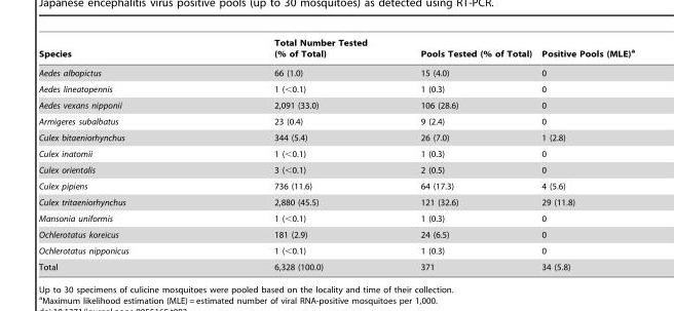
<table><thead><tr><td>Species</td><td>Total Number Tested (% of Total)</td><td>Pools Tested (% of Total)</td><td>Positive Pools (MLE)<sup>a</sup></td></tr></thead><tbody><tr><td>Aedes albopictus</td><td>66 (1.0)</td><td>15 (4.0)</td><td>0</td></tr><tr><td>Aedes lineatopennis</td><td>1 (&lt;0.1)</td><td>1 (0.3)</td><td>0</td></tr><tr><td>Aedes vexans nipponii</td><td>2,091 (33.0)</td><td>106 (28.6)</td><td>0</td></tr><tr><td>Armigeres subalbatus</td><td>23 (0.4)</td><td>9 (2.4)</td><td>0</td></tr><tr><td>Culex bitaeniorhynchus</td><td>344 (5.4)</td><td>26 (7.0)</td><td>1 (2.8)</td></tr><tr><td>Culex inatomii</td><td>1 (&lt;0.1)</td><td>1 (0.3)</td><td>0</td></tr><tr><td>Culex orientalis</td><td>3 (&lt;0.1)</td><td>2 (0.5)</td><td>0</td></tr><tr><td>Culex pipiens</td><td>736 (11.6)</td><td>64 (17.3)</td><td>4 (5.6)</td></tr><tr><td>Culex tritaeniorhynchus</td><td>2,880 (45.5)</td><td>121 (32.6)</td><td>29 (11.8)</td></tr><tr><td>Mansonia uniformis</td><td>1 (&lt;0.1)</td><td>1 (0.3)</td><td>0</td></tr><tr><td>Ochlerotatus koreicus</td><td>181 (2.9)</td><td>24 (6.5)</td><td>0</td></tr><tr><td>Ochlerotatus nipponicus</td><td>1 (&lt;0.1)</td><td>1 (0.3)</td><td>0</td></tr><tr><td>Total</td><td>6,328 (100.0)</td><td>371</td><td>34 (5.8)</td></tr></tbody></table>